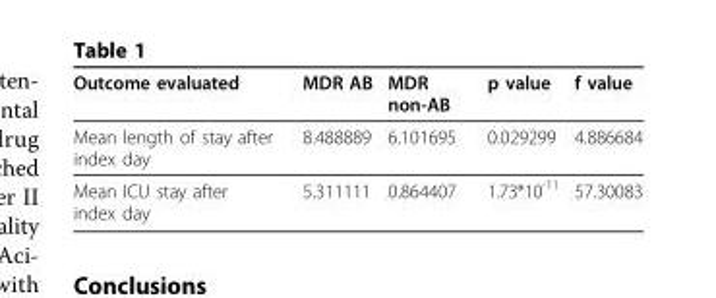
<table><thead><tr><td>Outcome evaluated</td><td>MDR AB</td><td>MDR non-AB</td><td>p value</td><td>f value</td></tr></thead><tbody><tr><td>Mean length of stay after index day</td><td>8.488889</td><td>6.101695</td><td>0.029299</td><td>4.886684</td></tr><tr><td>Mean ICU stay after index day</td><td>5.311111</td><td>0.864407</td><td>1.73*10<sup>-11</sup></td><td>57.30083</td></tr></tbody></table>